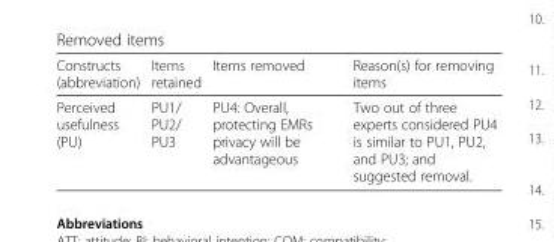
<table><thead><tr><td>Constructs (abbreviation)</td><td>Items retained</td><td>Items removed</td><td>Reason(s) for removing items</td></tr></thead><tbody><tr><td>Perceived usefulness (PU)</td><td>PU1/ PU2/ PU3</td><td>PU4: Overall, protecting EMRs privacy will be advantageous</td><td>Two out of three experts considered PU4 is similar to PU1, PU2, and PU3; and suggested removal.</td></tr></tbody></table>